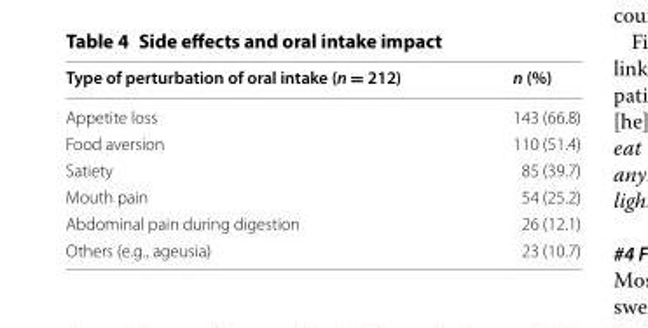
<table><thead><tr><td>Type of perturbation of oral intake (n = 212)</td><td>n (%)</td></tr></thead><tbody><tr><td>Appetite loss</td><td>143 (66.8)</td></tr><tr><td>Food aversion</td><td>110 (51.4)</td></tr><tr><td>Satiety</td><td>85 (39.7)</td></tr><tr><td>Mouth pain</td><td>54 (25.2)</td></tr><tr><td>Abdominal pain during digestion</td><td>26 (12.1)</td></tr><tr><td>Others (e.g., ageusia)</td><td>23 (10.7)</td></tr></tbody></table>